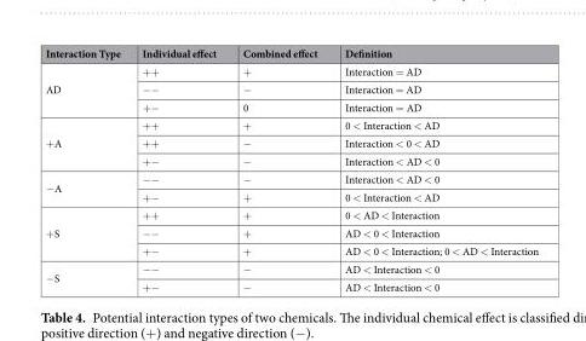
<table><thead><tr><td>Interaction Type</td><td>Individual effect</td><td>Combined effect</td><td>Definition</td></tr></thead><tbody><tr><td rowspan="3">AD</td><td>++</td><td>+</td><td>Interaction = AD</td></tr><tr><td>−−</td><td>−</td><td>Interaction = AD</td></tr><tr><td>+−</td><td>0</td><td>Interaction = AD</td></tr><tr><td rowspan="3">+A</td><td>++</td><td>+</td><td>0 &lt; Interaction &lt; AD</td></tr><tr><td>++</td><td>−</td><td>Interaction &lt; 0 &lt; AD</td></tr><tr><td>+−</td><td>−</td><td>Interaction &lt; AD &lt; 0</td></tr><tr><td rowspan="2">−A</td><td>−−</td><td>−</td><td>Interaction &lt; AD &lt; 0</td></tr><tr><td>+−</td><td>+</td><td>0 &lt; Interaction &lt; AD</td></tr><tr><td rowspan="3">+S</td><td>++</td><td>+</td><td>0 &lt; AD &lt; Interaction</td></tr><tr><td>−−</td><td>+</td><td>AD &lt; 0 &lt; Interaction</td></tr><tr><td>+−</td><td>+</td><td>AD &lt; 0 &lt; Interaction; 0 &lt; AD &lt; Interaction</td></tr><tr><td rowspan="2">−S</td><td>−−</td><td>−</td><td>AD &lt; Interaction &lt; 0</td></tr><tr><td>+−</td><td>−</td><td>AD &lt; Interaction &lt; 0</td></tr></tbody></table>